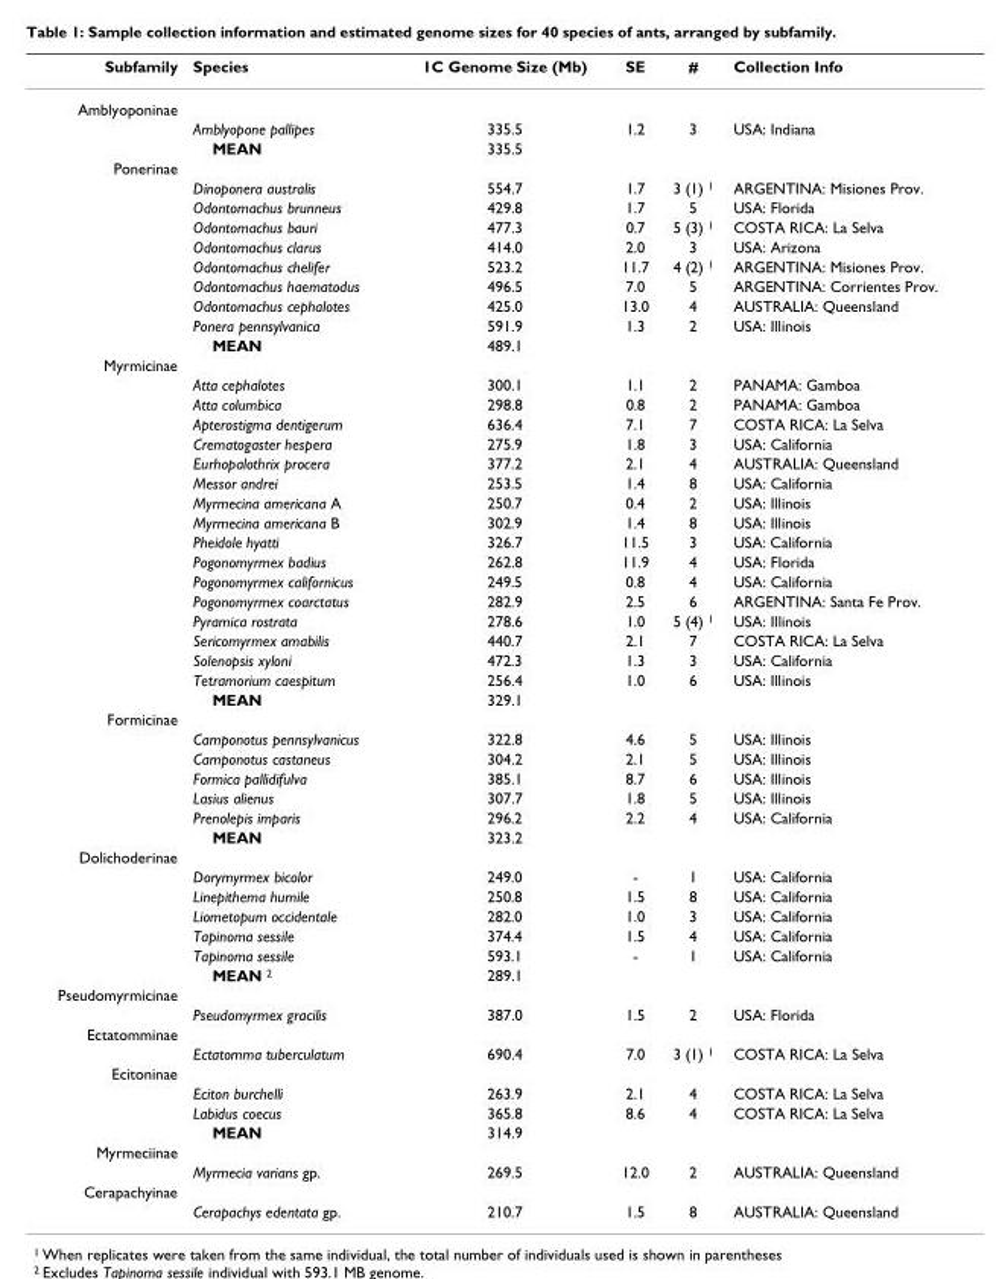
<table><thead><tr><td>Subfamily</td><td>Species</td><td>1C Genome Size (Mb)</td><td>SE</td><td>#</td><td>Collection Info</td></tr></thead><tbody><tr><td colspan="6">Amblyoponinae</td></tr><tr><td></td><td>Amblyopone pallipes</td><td>335.5</td><td>1.2</td><td>3</td><td>USA: Indiana</td></tr><tr><td></td><td>MEAN</td><td>335.5</td><td></td><td></td><td></td></tr><tr><td colspan="6">Ponerinae</td></tr><tr><td></td><td>Dinoponera australis</td><td>554.7</td><td>1.7</td><td>3 (1) <sup>1</sup></td><td>ARGENTINA: Misiones Prov.</td></tr><tr><td></td><td>Odontomachus brunneus</td><td>429.8</td><td>1.7</td><td>5</td><td>USA: Florida</td></tr><tr><td></td><td>Odontomachus bauri</td><td>477.3</td><td>0.7</td><td>5 (3) <sup>1</sup></td><td>COSTA RICA: La Selva</td></tr><tr><td></td><td>Odontomachus clarus</td><td>414.0</td><td>2.0</td><td>3</td><td>USA: Arizona</td></tr><tr><td></td><td>Odontomachus chelifer</td><td>523.2</td><td>11.7</td><td>4 (2) <sup>1</sup></td><td>ARGENTINA: Misiones Prov.</td></tr><tr><td></td><td>Odontomachus haematodus</td><td>496.5</td><td>7.0</td><td>5</td><td>ARGENTINA: Corrientes Prov.</td></tr><tr><td></td><td>Odontomachus cephalotes</td><td>425.0</td><td>13.0</td><td>4</td><td>AUSTRALIA: Queensland</td></tr><tr><td></td><td>Ponera pennsylvanica</td><td>591.9</td><td>1.3</td><td>2</td><td>USA: Illinois</td></tr><tr><td></td><td>MEAN</td><td>489.1</td><td></td><td></td><td></td></tr><tr><td colspan="6">Myrmicinae</td></tr><tr><td></td><td>Atta cephalotes</td><td>300.1</td><td>1.1</td><td>2</td><td>PANAMA: Gamboa</td></tr><tr><td></td><td>Atta columbica</td><td>298.8</td><td>0.8</td><td>2</td><td>PANAMA: Gamboa</td></tr><tr><td></td><td>Apterostigma dentigerum</td><td>636.4</td><td>7.1</td><td>7</td><td>COSTA RICA: La Selva</td></tr><tr><td></td><td>Crematogaster hespera</td><td>275.9</td><td>1.8</td><td>3</td><td>USA: California</td></tr><tr><td></td><td>Eurhopalothrix procera</td><td>377.2</td><td>2.1</td><td>4</td><td>AUSTRALIA: Queensland</td></tr><tr><td></td><td>Messor andrei</td><td>253.5</td><td>1.4</td><td>8</td><td>USA: California</td></tr><tr><td></td><td>Myrmecina americana A</td><td>250.7</td><td>0.4</td><td>2</td><td>USA: Illinois</td></tr><tr><td></td><td>Myrmecina americana B</td><td>302.9</td><td>1.4</td><td>8</td><td>USA: Illinois</td></tr><tr><td></td><td>Pheidole hyatti</td><td>326.7</td><td>11.5</td><td>3</td><td>USA: California</td></tr><tr><td></td><td>Pogonomyrmex badius</td><td>262.8</td><td>11.9</td><td>4</td><td>USA: Florida</td></tr><tr><td></td><td>Pogonomyrmex californicus</td><td>249.5</td><td>0.8</td><td>4</td><td>USA: California</td></tr><tr><td></td><td>Pogonomyrmex coarctatus</td><td>282.9</td><td>2.5</td><td>6</td><td>ARGENTINA: Santa Fe Prov.</td></tr><tr><td></td><td>Pyramica rostrata</td><td>278.6</td><td>1.0</td><td>5 (4) <sup>1</sup></td><td>USA: Illinois</td></tr><tr><td></td><td>Sericomyrmex amabilis</td><td>440.7</td><td>2.1</td><td>7</td><td>COSTA RICA: La Selva</td></tr><tr><td></td><td>Solenopsis xyloni</td><td>472.3</td><td>1.3</td><td>3</td><td>USA: California</td></tr><tr><td></td><td>Tetramorium caespitum</td><td>256.4</td><td>1.0</td><td>6</td><td>USA: Illinois</td></tr><tr><td></td><td>MEAN</td><td>329.1</td><td></td><td></td><td></td></tr><tr><td colspan="6">Formicinae</td></tr><tr><td></td><td>Camponotus pennsylvanicus</td><td>322.8</td><td>4.6</td><td>5</td><td>USA: Illinois</td></tr><tr><td></td><td>Camponotus castaneus</td><td>304.2</td><td>2.1</td><td>5</td><td>USA: Illinois</td></tr><tr><td></td><td>Formica pallidifulva</td><td>385.1</td><td>8.7</td><td>6</td><td>USA: Illinois</td></tr><tr><td></td><td>Lasius alienus</td><td>307.7</td><td>1.8</td><td>5</td><td>USA: Illinois</td></tr><tr><td></td><td>Prenolepis imparis</td><td>296.2</td><td>2.2</td><td>4</td><td>USA: California</td></tr><tr><td></td><td>MEAN</td><td>323.2</td><td></td><td></td><td></td></tr><tr><td colspan="6">Dolichoderinae</td></tr><tr><td></td><td>Dorymyrmex bicolor</td><td>249.0</td><td>-</td><td>1</td><td>USA: California</td></tr><tr><td></td><td>Linepithema humile</td><td>250.8</td><td>1.5</td><td>8</td><td>USA: California</td></tr><tr><td></td><td>Liometopum occidentale</td><td>282.0</td><td>1.0</td><td>3</td><td>USA: California</td></tr><tr><td></td><td>Tapinoma sessile</td><td>374.4</td><td>1.5</td><td>4</td><td>USA: California</td></tr><tr><td></td><td>Tapinoma sessile</td><td>593.1</td><td>-</td><td>1</td><td>USA: California</td></tr><tr><td></td><td>MEAN <sup>2</sup></td><td>289.1</td><td></td><td></td><td></td></tr><tr><td colspan="6">Pseudomyrmicinae</td></tr><tr><td></td><td>Pseudomyrmex gracilis</td><td>387.0</td><td>1.5</td><td>2</td><td>USA: Florida</td></tr><tr><td colspan="6">Ectatomminae</td></tr><tr><td></td><td>Ectatomma tuberculatum</td><td>690.4</td><td>7.0</td><td>3 (1) <sup>1</sup></td><td>COSTA RICA: La Selva</td></tr><tr><td colspan="6">Ecitoninae</td></tr><tr><td></td><td>Eciton burchelli</td><td>263.9</td><td>2.1</td><td>4</td><td>COSTA RICA: La Selva</td></tr><tr><td></td><td>Labidus coecus</td><td>365.8</td><td>8.6</td><td>4</td><td>COSTA RICA: La Selva</td></tr><tr><td></td><td>MEAN</td><td>314.9</td><td></td><td></td><td></td></tr><tr><td colspan="6">Myrmeciinae</td></tr><tr><td></td><td>Myrmecia varians gp.</td><td>269.5</td><td>12.0</td><td>2</td><td>AUSTRALIA: Queensland</td></tr><tr><td colspan="6">Cerapachyinae</td></tr><tr><td></td><td>Cerapachys edentata gp.</td><td>210.7</td><td>1.5</td><td>8</td><td>AUSTRALIA: Queensland</td></tr></tbody></table>